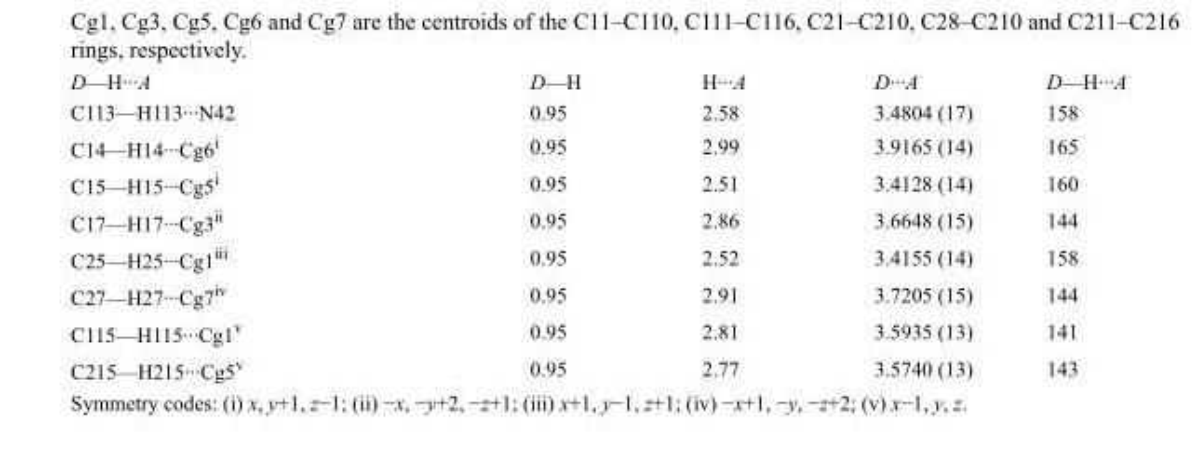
<table><tbody><tr><td>D—H···A</td><td>D—H</td><td>H···A</td><td>D···A</td><td>D—H···A</td></tr><tr><td>C113—H113···N42</td><td>0.95</td><td>2.58</td><td>3.4804 (17)</td><td>158</td></tr><tr><td>C14—H14···Cg6<sup>i</sup></td><td>0.95</td><td>2.99</td><td>3.9165 (14)</td><td>165</td></tr><tr><td>C15—H15···Cg5<sup>i</sup></td><td>0.95</td><td>2.51</td><td>3.4128 (14)</td><td>160</td></tr><tr><td>C17—H17···Cg3<sup>ii</sup></td><td>0.95</td><td>2.86</td><td>3.6648 (15)</td><td>144</td></tr><tr><td>C25—H25···Cg1<sup>iii</sup></td><td>0.95</td><td>2.52</td><td>3.4155 (14)</td><td>158</td></tr><tr><td>C27—H27···Cg7<sup>iv</sup></td><td>0.95</td><td>2.91</td><td>3.7205 (15)</td><td>144</td></tr><tr><td>C115—H115···Cg1<sup>v</sup></td><td>0.95</td><td>2.81</td><td>3.5935 (13)</td><td>141</td></tr><tr><td>C215—H215···Cg5<sup>v</sup></td><td>0.95</td><td>2.77</td><td>3.5740 (13)</td><td>143</td></tr></tbody></table>